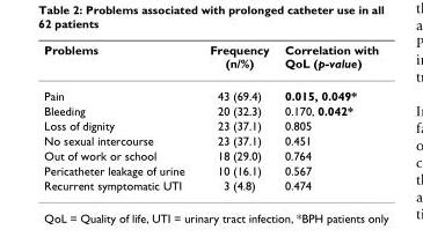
<table><thead><tr><td>Problems</td><td>Frequency (n/%)</td><td>Correlation with QoL (p-value)</td></tr></thead><tbody><tr><td>Pain</td><td>43 (69.4)</td><td>0.015, 0.049*</td></tr><tr><td>Bleeding</td><td>20 (32.3)</td><td>0.170, 0.042*</td></tr><tr><td>Loss of dignity</td><td>23 (37.1)</td><td>0.805</td></tr><tr><td>No sexual intercourse</td><td>23 (37.1)</td><td>0.451</td></tr><tr><td>Out of work or school</td><td>18 (29.0)</td><td>0.764</td></tr><tr><td>Pericatheter leakage of urine</td><td>10 (16.1)</td><td>0.567</td></tr><tr><td>Recurrent symptomatic UTI</td><td>3 (4.8)</td><td>0.474</td></tr></tbody></table>